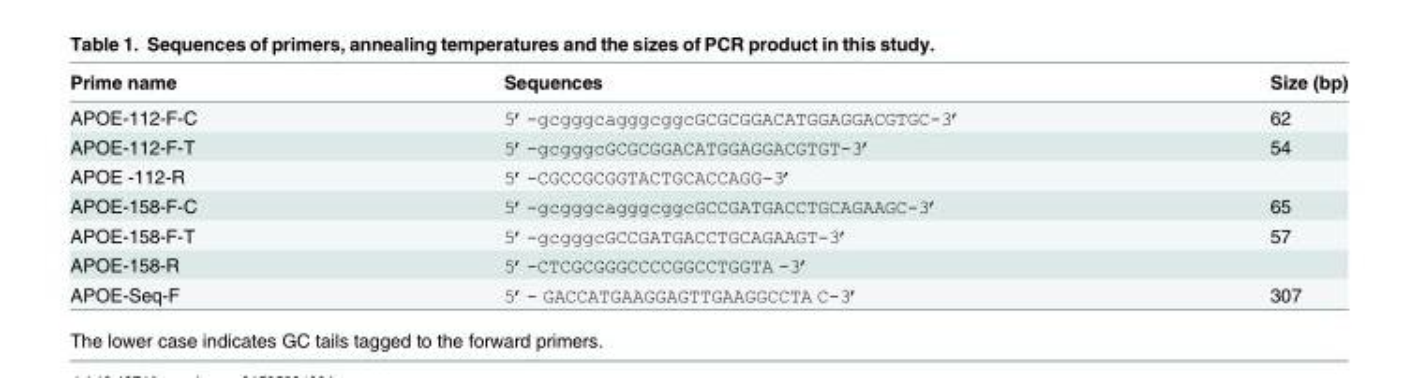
<table><thead><tr><td>Prime name</td><td>Sequences</td><td>Size (bp)</td></tr></thead><tbody><tr><td>APOE-112-F-C</td><td>5’-gcgggcagggcggcGCGCGGACATGGAGGACGTGC-3’</td><td>62</td></tr><tr><td>APOE-112-F-T</td><td>5’-gcgggcGCGCGGACATGGAGGACGTGT-3’</td><td>54</td></tr><tr><td>APOE -112-R</td><td>5’-CGCCGCGGTACTGCACCAGG-3’</td><td></td></tr><tr><td>APOE-158-F-C</td><td>5’-gcgggcagggcggcGCCGATGACCTGCAGAAGC-3’</td><td>65</td></tr><tr><td>APOE-158-F-T</td><td>5’-gcgggcGCCGATGACCTGCAGAAGT-3’</td><td>57</td></tr><tr><td>APOE-158-R</td><td>5’-CTCGCGGGCCCCGGCCTGGTA -3’</td><td></td></tr><tr><td>APOE-Seq-F</td><td>5’- GACCATGAAGGAGTTGAAGGCCTA C-3’</td><td>307</td></tr></tbody></table>